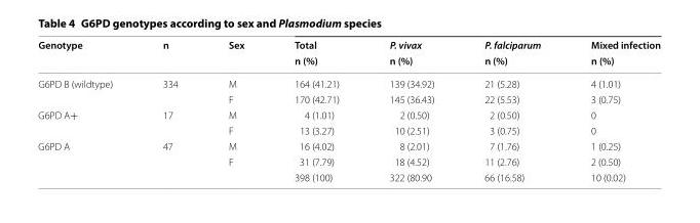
<table><thead><tr><td rowspan="2">Genotype</td><td rowspan="2">n</td><td rowspan="2">Sex</td><td rowspan="2">Total n (%)</td><td rowspan="2">P. vivax n (%)</td><td rowspan="2">P. falciparum n (%)</td><td rowspan="2">Mixed infection n (%)</td></tr><tr></tr></thead><tbody><tr><td rowspan="2">G6PD B (wildtype)</td><td rowspan="2">334</td><td>M</td><td>164 (41.21)</td><td>139 (34.92)</td><td>21 (5.28)</td><td>4 (1.01)</td></tr><tr><td>F</td><td>170 (42.71)</td><td>145 (36.43)</td><td>22 (5.53)</td><td>3 (0.75)</td></tr><tr><td rowspan="2">G6PD A+</td><td rowspan="2">17</td><td>M</td><td>4 (1.01)</td><td>2 (0.50)</td><td>2 (0.50)</td><td>0</td></tr><tr><td>F</td><td>13 (3.27)</td><td>10 (2.51)</td><td>3 (0.75)</td><td>0</td></tr><tr><td rowspan="3">G6PD A</td><td rowspan="2">47</td><td>M</td><td>16 (4.02)</td><td>8 (2.01)</td><td>7 (1.76)</td><td>1 (0.25)</td></tr><tr><td>F</td><td>31 (7.79)</td><td>18 (4.52)</td><td>11 (2.76)</td><td>2 (0.50)</td></tr><tr><td></td><td></td><td>398 (100)</td><td>322 (80.90</td><td>66 (16.58)</td><td>10 (0.02)</td></tr></tbody></table>